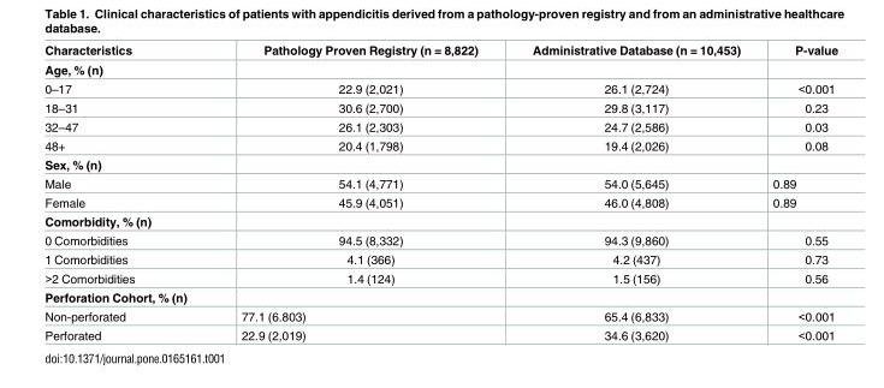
<table><thead><tr><td>Characteristics</td><td>Pathology Proven Registry (n = 8,822)</td><td>Administrative Database (n = 10,453)</td><td>P-value</td></tr></thead><tbody><tr><td colspan="4">Age, % (n)</td></tr><tr><td>0–17</td><td>22.9 (2,021)</td><td>26.1 (2,724)</td><td>&lt;0.001</td></tr><tr><td>18–31</td><td>30.6 (2,700)</td><td>29.8 (3,117)</td><td>0.23</td></tr><tr><td>32–47</td><td>26.1 (2,303)</td><td>24.7 (2,586)</td><td>0.03</td></tr><tr><td>48+</td><td>20.4 (1,798)</td><td>19.4 (2,026)</td><td>0.08</td></tr><tr><td colspan="4">Sex, % (n)</td></tr><tr><td>Male</td><td>54.1 (4,771)</td><td>54.0 (5,645)</td><td>0.89</td></tr><tr><td>Female</td><td>45.9 (4,051)</td><td>46.0 (4,808)</td><td>0.89</td></tr><tr><td colspan="4">Comorbidity, % (n)</td></tr><tr><td>0 Comorbidities</td><td>94.5 (8,332)</td><td>94.3 (9,860)</td><td>0.55</td></tr><tr><td>1 Comorbidities</td><td>4.1 (366)</td><td>4.2 (437)</td><td>0.73</td></tr><tr><td>&gt;2 Comorbidities</td><td>1.4 (124)</td><td>1.5 (156)</td><td>0.56</td></tr><tr><td colspan="4">Perforation Cohort, % (n)</td></tr><tr><td>Non-perforated</td><td>77.1 (6.803)</td><td>65.4 (6,833)</td><td>&lt;0.001</td></tr><tr><td>Perforated</td><td>22.9 (2,019)</td><td>34.6 (3,620)</td><td>&lt;0.001</td></tr></tbody></table>